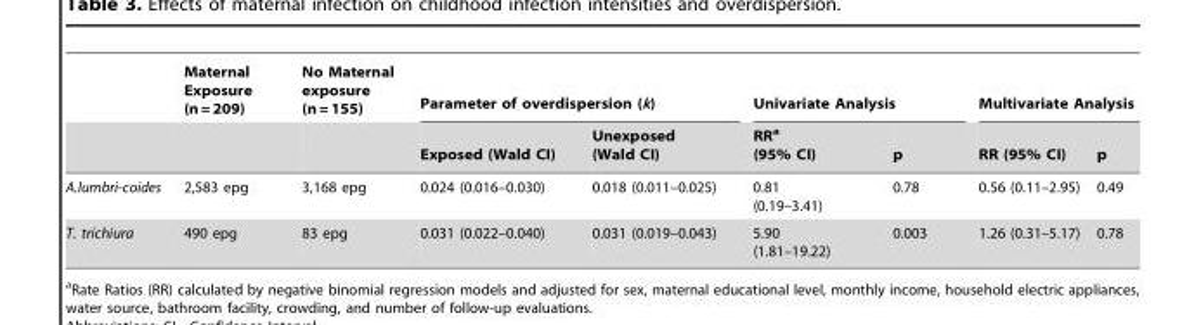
<table><thead><tr><td rowspan="2"></td><td rowspan="2">Maternal Exposure (n = 209)</td><td rowspan="2">No Maternal exposure (n = 155)</td><td colspan="2">Parameter of overdispersion (k)</td><td colspan="2">Univariate Analysis</td><td colspan="2">Multivariate Analysis</td></tr><tr><td>Exposed (Wald CI)</td><td>Unexposed (Wald CI)</td><td>RR<sup>a</sup> (95% CI)</td><td>p</td><td>RR (95% CI)</td><td>p</td></tr></thead><tbody><tr><td>A.lumbri-coides</td><td>2,583 epg</td><td>3,168 epg</td><td>0.024 (0.016–0.030)</td><td>0.018 (0.011–0.025)</td><td>0.81 (0.19–3.41)</td><td>0.78</td><td>0.56 (0.11–2.95)</td><td>0.49</td></tr><tr><td>T. trichiura</td><td>490 epg</td><td>83 epg</td><td>0.031 (0.022–0.040)</td><td>0.031 (0.019–0.043)</td><td>5.90 (1.81–19.22)</td><td>0.003</td><td>1.26 (0.31–5.17)</td><td>0.78</td></tr></tbody></table>